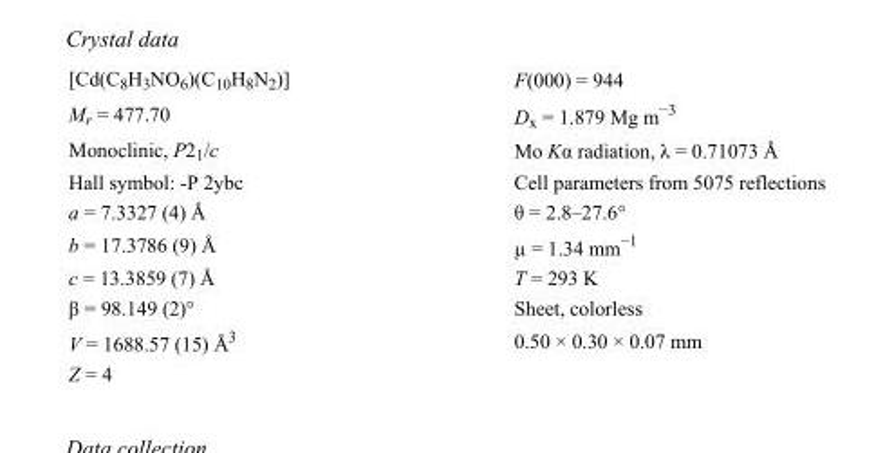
<table><tbody><tr><td>[Cd(C<sub>8</sub>H<sub>3</sub>NO<sub>6</sub>)(C<sub>10</sub>H<sub>8</sub>N<sub>2</sub>)]</td><td>F(000) = 944</td></tr><tr><td>M<sub>r</sub> = 477.70</td><td>D<sub>x</sub> = 1.879 Mg m<sup>−3</sup></td></tr><tr><td>Monoclinic, P2<sub>1</sub>/c</td><td>Mo Kα radiation, λ = 0.71073 Å</td></tr><tr><td>Hall symbol: -P 2ybc</td><td>Cell parameters from 5075 reflections</td></tr><tr><td>a = 7.3327 (4) Å</td><td>θ = 2.8–27.6°</td></tr><tr><td>b = 17.3786 (9) Å</td><td>µ = 1.34 mm<sup>−1</sup></td></tr><tr><td>c = 13.3859 (7) Å</td><td>T = 293 K</td></tr><tr><td>β = 98.149 (2)°</td><td>Sheet, colorless</td></tr><tr><td>V = 1688.57 (15) Å<sup>3</sup></td><td>0.50 × 0.30 × 0.07 mm</td></tr><tr><td>Z = 4</td><td></td></tr></tbody></table>